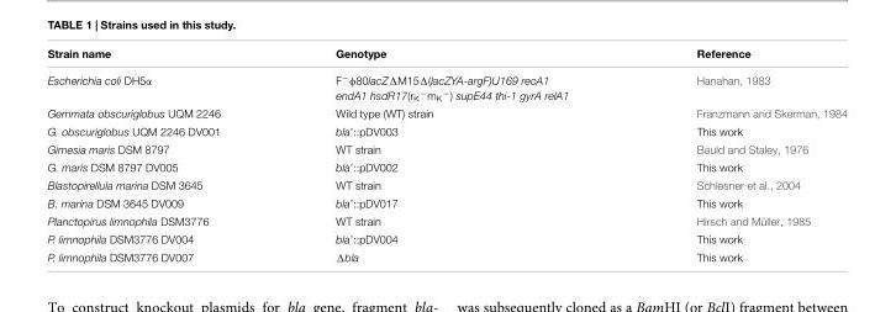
<table><thead><tr><td>Strain name</td><td>Genotype</td><td>Reference</td></tr></thead><tbody><tr><td>Escherichia coli DH5α</td><td>F<sup>−</sup>φ80lacZΔM15Δ(lacZYA-argF)U169 recA1 endA1 hsdR17(r<sub>K</sub><sup>−</sup>m<sub>K</sub><sup>−</sup>) supE44 thi-1 gyrA relA1</td><td>Hanahan, 1983</td></tr><tr><td>Gemmata obscuriglobus UQM 2246</td><td>Wild type (WT) strain</td><td>Franzmann and Skerman, 1984</td></tr><tr><td>G. obscuriglobus UQM 2246 DV001</td><td>bla’::pDV003</td><td>This work</td></tr><tr><td>Gimesia maris DSM 8797</td><td>WT strain</td><td>Bauld and Staley, 1976</td></tr><tr><td>G. maris DSM 8797 DV005</td><td>bla’::pDV002</td><td>This work</td></tr><tr><td>Blastopirellula marina DSM 3645</td><td>WT strain</td><td>Schlesner et al., 2004</td></tr><tr><td>B. marina DSM 3645 DV009</td><td>bla’::pDV017</td><td>This work</td></tr><tr><td>Planctopirus limnophila DSM3776</td><td>WT strain</td><td>Hirsch and Müller, 1985</td></tr><tr><td>P. limnophila DSM3776 DV004</td><td>bla’::pDV004</td><td>This work</td></tr><tr><td>P. limnophila DSM3776 DV007</td><td>Δbla</td><td>This work</td></tr></tbody></table>